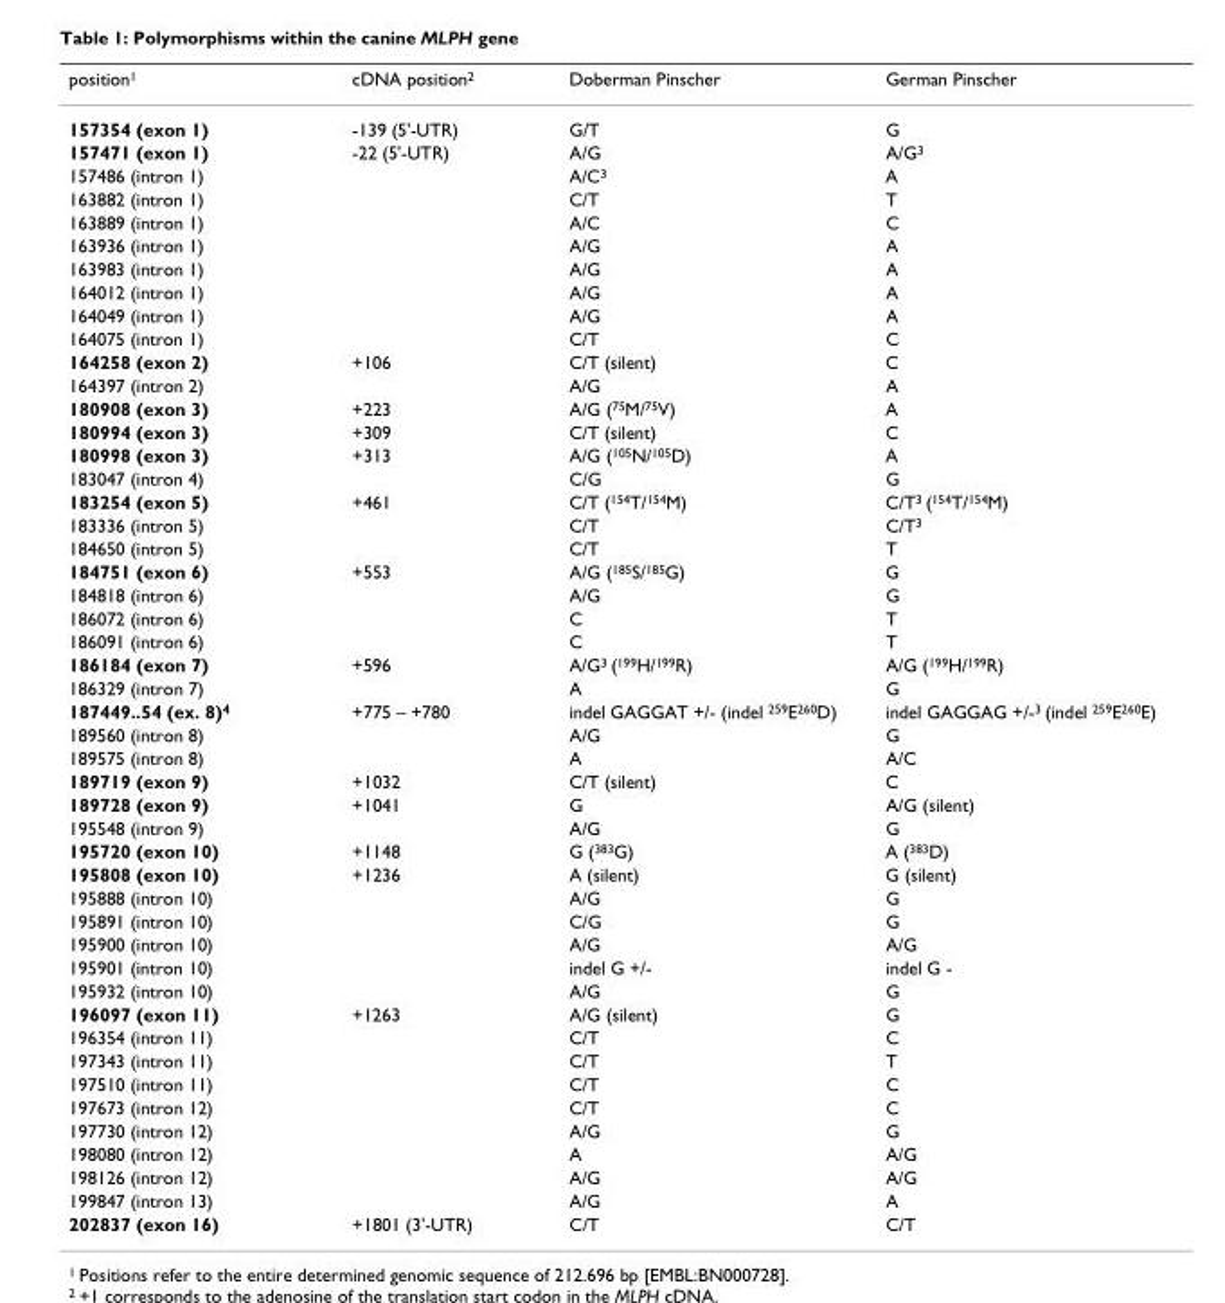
<table><thead><tr><td>position<sup>1</sup></td><td>cDNA position<sup>2</sup></td><td>Doberman Pinscher</td><td>German Pinscher</td></tr></thead><tbody><tr><td>157354 (exon 1)</td><td>-139 (5&#x27;-UTR)</td><td>G/T</td><td>G</td></tr><tr><td>157471 (exon 1)</td><td>-22 (5&#x27;-UTR)</td><td>A/G</td><td>A/G<sup>3</sup></td></tr><tr><td>157486 (intron 1)</td><td></td><td>A/C<sup>3</sup></td><td>A</td></tr><tr><td>163882 (intron 1)</td><td></td><td>C/T</td><td>T</td></tr><tr><td>163889 (intron 1)</td><td></td><td>A/C</td><td>C</td></tr><tr><td>163936 (intron 1)</td><td></td><td>A/G</td><td>A</td></tr><tr><td>163983 (intron 1)</td><td></td><td>A/G</td><td>A</td></tr><tr><td>164012 (intron 1)</td><td></td><td>A/G</td><td>A</td></tr><tr><td>164049 (intron 1)</td><td></td><td>A/G</td><td>A</td></tr><tr><td>164075 (intron 1)</td><td></td><td>C/T</td><td>C</td></tr><tr><td>164258 (exon 2)</td><td>+106</td><td>C/T (silent)</td><td>C</td></tr><tr><td>164397 (intron 2)</td><td></td><td>A/G</td><td>A</td></tr><tr><td>180908 (exon 3)</td><td>+223</td><td>A/G (<sup>75</sup>M/<sup>75</sup>V)</td><td>A</td></tr><tr><td>180994 (exon 3)</td><td>+309</td><td>C/T (silent)</td><td>C</td></tr><tr><td>180998 (exon 3)</td><td>+313</td><td>A/G (<sup>105</sup>N/<sup>105</sup>D)</td><td>A</td></tr><tr><td>183047 (intron 4)</td><td></td><td>C/G</td><td>G</td></tr><tr><td>183254 (exon 5)</td><td>+461</td><td>C/T (<sup>154</sup>T/<sup>154</sup>M)</td><td>C/T<sup>3</sup> (<sup>154</sup>T/<sup>154</sup>M)</td></tr><tr><td>183336 (intron 5)</td><td></td><td>C/T</td><td>C/T<sup>3</sup></td></tr><tr><td>184650 (intron 5)</td><td></td><td>C/T</td><td>T</td></tr><tr><td>184751 (exon 6)</td><td>+553</td><td>A/G (<sup>185</sup>S/<sup>185</sup>G)</td><td>G</td></tr><tr><td>184818 (intron 6)</td><td></td><td>A/G</td><td>G</td></tr><tr><td>186072 (intron 6)</td><td></td><td>C</td><td>T</td></tr><tr><td>186091 (intron 6)</td><td></td><td>C</td><td>T</td></tr><tr><td>186184 (exon 7)</td><td>+596</td><td>A/G<sup>3</sup> (<sup>199</sup>H/<sup>199</sup>R)</td><td>A/G (<sup>199</sup>H/<sup>199</sup>R)</td></tr><tr><td>186329 (intron 7)</td><td></td><td>A</td><td>G</td></tr><tr><td>187449..54 (ex. 8)<sup>4</sup></td><td>+775 – +780</td><td>indel GAGGAT +/- (indel <sup>259</sup>E<sup>260</sup>D)</td><td>indel GAGGAG +/-<sup>3</sup> (indel <sup>259</sup>E<sup>260</sup>E)</td></tr><tr><td>189560 (intron 8)</td><td></td><td>A/G</td><td>G</td></tr><tr><td>189575 (intron 8)</td><td></td><td>A</td><td>A/C</td></tr><tr><td>189719 (exon 9)</td><td>+1032</td><td>C/T (silent)</td><td>C</td></tr><tr><td>189728 (exon 9)</td><td>+1041</td><td>G</td><td>A/G (silent)</td></tr><tr><td>195548 (intron 9)</td><td></td><td>A/G</td><td>G</td></tr><tr><td>195720 (exon 10)</td><td>+1148</td><td>G (<sup>383</sup>G)</td><td>A (<sup>383</sup>D)</td></tr><tr><td>195808 (exon 10)</td><td>+1236</td><td>A (silent)</td><td>G (silent)</td></tr><tr><td>195888 (intron 10)</td><td></td><td>A/G</td><td>G</td></tr><tr><td>195891 (intron 10)</td><td></td><td>C/G</td><td>G</td></tr><tr><td>195900 (intron 10)</td><td></td><td>A/G</td><td>A/G</td></tr><tr><td>195901 (intron 10)</td><td></td><td>indel G +/-</td><td>indel G -</td></tr><tr><td>195932 (intron 10)</td><td></td><td>A/G</td><td>G</td></tr><tr><td>196097 (exon 11)</td><td>+1263</td><td>A/G (silent)</td><td>G</td></tr><tr><td>196354 (intron 11)</td><td></td><td>C/T</td><td>C</td></tr><tr><td>197343 (intron 11)</td><td></td><td>C/T</td><td>T</td></tr><tr><td>197510 (intron 11)</td><td></td><td>C/T</td><td>C</td></tr><tr><td>197673 (intron 12)</td><td></td><td>C/T</td><td>C</td></tr><tr><td>197730 (intron 12)</td><td></td><td>A/G</td><td>G</td></tr><tr><td>198080 (intron 12)</td><td></td><td>A</td><td>A/G</td></tr><tr><td>198126 (intron 12)</td><td></td><td>A/G</td><td>A/G</td></tr><tr><td>199847 (intron 13)</td><td></td><td>A/G</td><td>A</td></tr><tr><td>202837 (exon 16)</td><td>+1801 (3&#x27;-UTR)</td><td>C/T</td><td>C/T</td></tr></tbody></table>